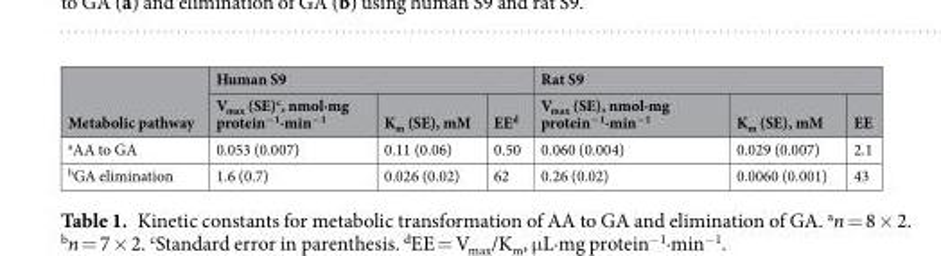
<table><thead><tr><td rowspan="2">Metabolic pathway</td><td colspan="3">Human S9</td><td colspan="3">Rat S9</td></tr><tr><td>V<sub>max</sub> (SE)<sup>c</sup>, nmol·mg protein<sup>−1</sup>·min<sup>−1</sup></td><td>K<sub>m</sub> (SE), mM</td><td>EE<sup>d</sup></td><td>V<sub>max</sub> (SE), nmol·mg protein<sup>−1</sup>·min<sup>−1</sup></td><td>K<sub>m</sub> (SE), mM</td><td>EE</td></tr></thead><tbody><tr><td><sup>a</sup>AA to GA</td><td>0.053 (0.007)</td><td>0.11 (0.06)</td><td>0.50</td><td>0.060 (0.004)</td><td>0.029 (0.007)</td><td>2.1</td></tr><tr><td><sup>b</sup>GA elimination</td><td>1.6 (0.7)</td><td>0.026 (0.02)</td><td>62</td><td>0.26 (0.02)</td><td>0.0060 (0.001)</td><td>43</td></tr></tbody></table>